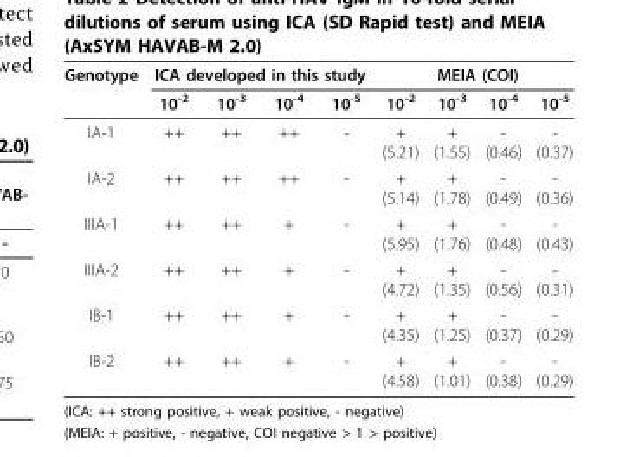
<table><tbody><tr><td rowspan="2">Genotype</td><td colspan="4">ICA developed in this study</td><td colspan="4">MEIA (COI)</td></tr><tr><td>10<sup>-2</sup></td><td>10<sup>-3</sup></td><td>10<sup>-4</sup></td><td>10<sup>-5</sup></td><td>10<sup>-2</sup></td><td>10<sup>-3</sup></td><td>10<sup>-4</sup></td><td>10<sup>-5</sup></td></tr><tr><td>IA-1</td><td>++</td><td>++</td><td>++</td><td>-</td><td>+ (5.21)</td><td>+ (1.55)</td><td>- (0.46)</td><td>- (0.37)</td></tr><tr><td>IA-2</td><td>++</td><td>++</td><td>++</td><td>-</td><td>+ (5.14)</td><td>+ (1.78)</td><td>- (0.49)</td><td>- (0.36)</td></tr><tr><td>IIIA-1</td><td>++</td><td>++</td><td>+</td><td>-</td><td>+ (5.95)</td><td>+ (1.76)</td><td>- (0.48)</td><td>- (0.43)</td></tr><tr><td>IIIA-2</td><td>++</td><td>++</td><td>+</td><td>-</td><td>+ (4.72)</td><td>+ (1.35)</td><td>- (0.56)</td><td>- (0.31)</td></tr><tr><td>IB-1</td><td>++</td><td>++</td><td>+</td><td>-</td><td>+ (4.35)</td><td>+ (1.25)</td><td>- (0.37)</td><td>- (0.29)</td></tr><tr><td>IB-2</td><td>++</td><td>++</td><td>+</td><td>-</td><td>+ (4.58)</td><td>+ (1.01)</td><td>- (0.38)</td><td>- (0.29)</td></tr></tbody></table>